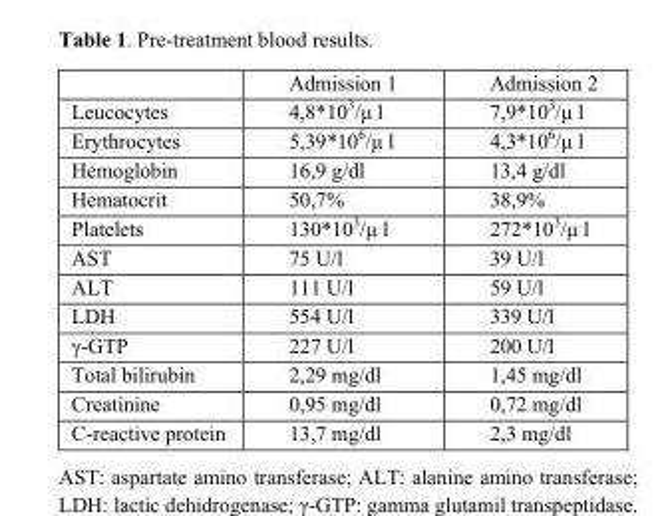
<table><thead><tr><td></td><td>Admission 1</td><td>Admission 2</td></tr></thead><tbody><tr><td>Leucocytes</td><td>4,8*10<sup>3</sup>/μ l</td><td>7,9*10<sup>3</sup>/μ l</td></tr><tr><td>Erythrocytes</td><td>5,39*10<sup>6</sup>/μ l</td><td>4,3*10<sup>6</sup>/μ l</td></tr><tr><td>Hemoglobin</td><td>16,9 g/dl</td><td>13,4 g/dl</td></tr><tr><td>Hematocrit</td><td>50,7%</td><td>38,9%</td></tr><tr><td>Platelets</td><td>130*10<sup>3</sup>/μ l</td><td>272*10<sup>3</sup>/μ l</td></tr><tr><td>AST</td><td>75 U/l</td><td>39 U/l</td></tr><tr><td>ALT</td><td>111 U/l</td><td>59 U/l</td></tr><tr><td>LDH</td><td>554 U/l</td><td>339 U/l</td></tr><tr><td>γ-GTP</td><td>227 U/l</td><td>200 U/l</td></tr><tr><td>Total bilirubin</td><td>2,29 mg/dl</td><td>1,45 mg/dl</td></tr><tr><td>Creatinine</td><td>0,95 mg/dl</td><td>0,72 mg/dl</td></tr><tr><td>C-reactive protein</td><td>13,7 mg/dl</td><td>2,3 mg/dl</td></tr></tbody></table>